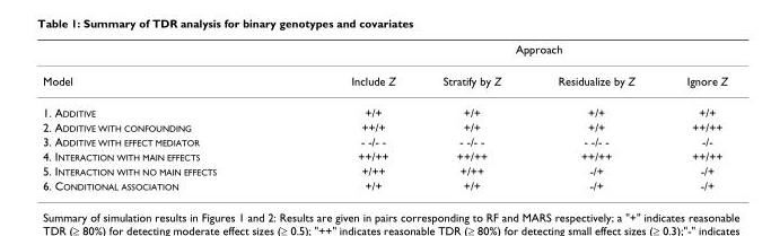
<table><thead><tr><td rowspan="2">Model</td><td colspan="4">Approach</td></tr><tr><td>Include Z</td><td>Stratify by Z</td><td>Residualize by Z</td><td>Ignore Z</td></tr></thead><tbody><tr><td>1. ADDITIVE</td><td>+/+</td><td>+/+</td><td>+/+</td><td>+/+</td></tr><tr><td>2. ADDITIVE WITH CONFOUNDING</td><td>++/+</td><td>+/+</td><td>+/+</td><td>++/++</td></tr><tr><td>3. ADDITIVE WITH EFFECT MEDIATOR</td><td>- -/- -</td><td>- -/- -</td><td>- -/- -</td><td>-/-</td></tr><tr><td>4. INTERACTION WITH MAIN EFFECTS</td><td>++/++</td><td>++/++</td><td>++/++</td><td>++/++</td></tr><tr><td>5. INTERACTION WITH NO MAIN EFFECTS</td><td>+/++</td><td>+/++</td><td>-/+</td><td>-/+</td></tr><tr><td>6. CONDITIONAL ASSOCIATION</td><td>+/+</td><td>+/+</td><td>-/+</td><td>-/+</td></tr></tbody></table>